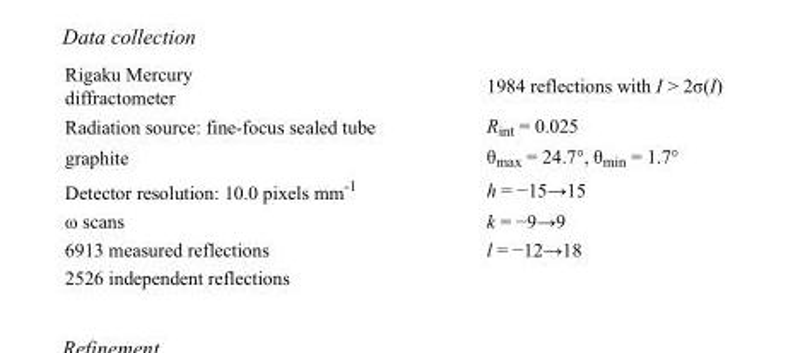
<table><tbody><tr><td>Rigaku Mercury diffractometer</td><td>1984 reflections with I &gt; 2σ(I)</td></tr><tr><td>Radiation source: fine-focus sealed tube</td><td>R<sub>int</sub> = 0.025</td></tr><tr><td>graphite</td><td>θ<sub>max</sub> = 24.7°, θ<sub>min</sub> = 1.7°</td></tr><tr><td>Detector resolution: 10.0 pixels mm<sup>-1</sup></td><td>h = −15→15</td></tr><tr><td>ω scans</td><td>k = −9→9</td></tr><tr><td>6913 measured reflections</td><td>l = −12→18</td></tr><tr><td>2526 independent reflections</td><td></td></tr></tbody></table>